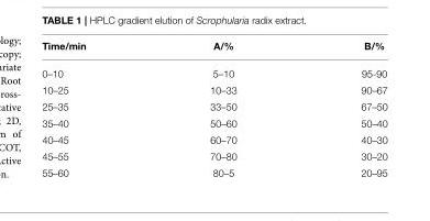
<table><thead><tr><td>Time/min</td><td>A/%</td><td>B/%</td></tr></thead><tbody><tr><td>0–10</td><td>5–10</td><td>95-90</td></tr><tr><td>10–25</td><td>10–33</td><td>90–67</td></tr><tr><td>25–35</td><td>33–50</td><td>67–50</td></tr><tr><td>35–40</td><td>50–60</td><td>50–40</td></tr><tr><td>40–45</td><td>60–70</td><td>40–30</td></tr><tr><td>45–55</td><td>70–80</td><td>30–20</td></tr><tr><td>55–60</td><td>80–5</td><td>20–95</td></tr></tbody></table>